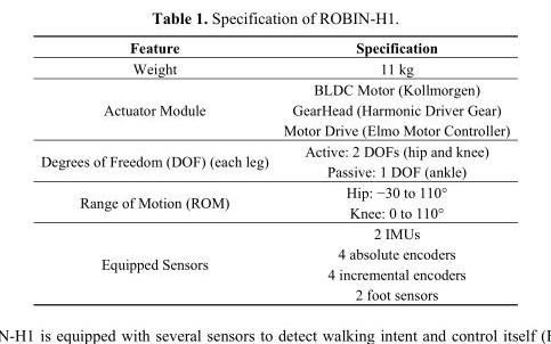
<table><thead><tr><td>Feature</td><td>Specification</td></tr></thead><tbody><tr><td>Weight</td><td>11 kg</td></tr><tr><td rowspan="3">Actuator Module</td><td>BLDC Motor (Kollmorgen)</td></tr><tr><td>GearHead (Harmonic Driver Gear)</td></tr><tr><td>Motor Drive (Elmo Motor Controller)</td></tr><tr><td rowspan="2">Degrees of Freedom (DOF) (each leg)</td><td>Active: 2 DOFs (hip and knee)</td></tr><tr><td>Passive: 1 DOF (ankle)</td></tr><tr><td rowspan="2">Range of Motion (ROM)</td><td>Hip: −30 to 110°</td></tr><tr><td>Knee: 0 to 110°</td></tr><tr><td rowspan="4">Equipped Sensors</td><td>2 IMUs</td></tr><tr><td>4 absolute encoders</td></tr><tr><td>4 incremental encoders</td></tr><tr><td>2 foot sensors</td></tr></tbody></table>